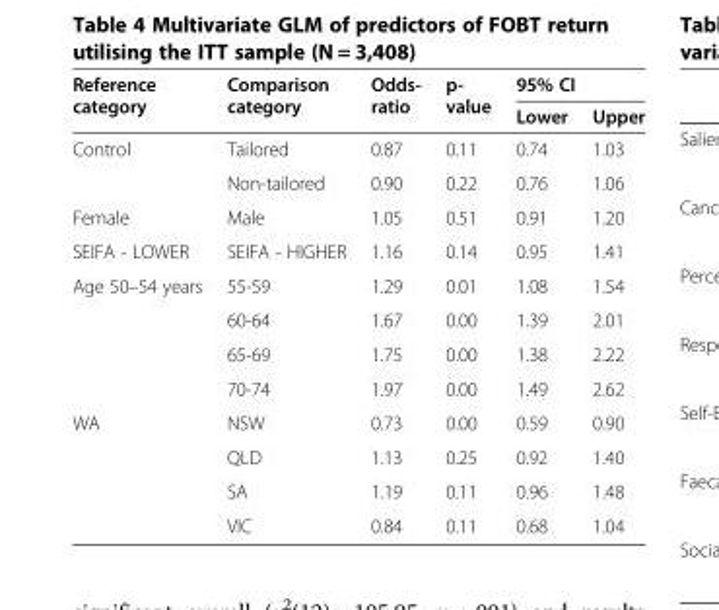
<table><thead><tr><td rowspan="2">Reference category</td><td rowspan="2">Comparison category</td><td rowspan="2">Odds- ratio</td><td rowspan="2">p- value</td><td colspan="2">95% CI</td></tr><tr><td>Lower</td><td>Upper</td></tr></thead><tbody><tr><td rowspan="2">Control</td><td>Tailored</td><td>0.87</td><td>0.11</td><td>0.74</td><td>1.03</td></tr><tr><td>Non-tailored</td><td>0.90</td><td>0.22</td><td>0.76</td><td>1.06</td></tr><tr><td>Female</td><td>Male</td><td>1.05</td><td>0.51</td><td>0.91</td><td>1.20</td></tr><tr><td>SEIFA - LOWER</td><td>SEIFA - HIGHER</td><td>1.16</td><td>0.14</td><td>0.95</td><td>1.41</td></tr><tr><td rowspan="4">Age 50–54 years</td><td>55-59</td><td>1.29</td><td>0.01</td><td>1.08</td><td>1.54</td></tr><tr><td>60-64</td><td>1.67</td><td>0.00</td><td>1.39</td><td>2.01</td></tr><tr><td>65-69</td><td>1.75</td><td>0.00</td><td>1.38</td><td>2.22</td></tr><tr><td>70-74</td><td>1.97</td><td>0.00</td><td>1.49</td><td>2.62</td></tr><tr><td rowspan="4">WA</td><td>NSW</td><td>0.73</td><td>0.00</td><td>0.59</td><td>0.90</td></tr><tr><td>QLD</td><td>1.13</td><td>0.25</td><td>0.92</td><td>1.40</td></tr><tr><td>SA</td><td>1.19</td><td>0.11</td><td>0.96</td><td>1.48</td></tr><tr><td>VIC</td><td>0.84</td><td>0.11</td><td>0.68</td><td>1.04</td></tr></tbody></table>